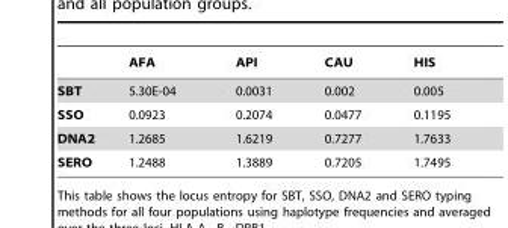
<table><thead><tr><td></td><td>AFA</td><td>API</td><td>CAU</td><td>HIS</td></tr></thead><tbody><tr><td>SBT</td><td>5.30E-04</td><td>0.0031</td><td>0.002</td><td>0.005</td></tr><tr><td>SSO</td><td>0.0923</td><td>0.2074</td><td>0.0477</td><td>0.1195</td></tr><tr><td>DNA2</td><td>1.2685</td><td>1.6219</td><td>0.7277</td><td>1.7633</td></tr><tr><td>SERO</td><td>1.2488</td><td>1.3889</td><td>0.7205</td><td>1.7495</td></tr></tbody></table>